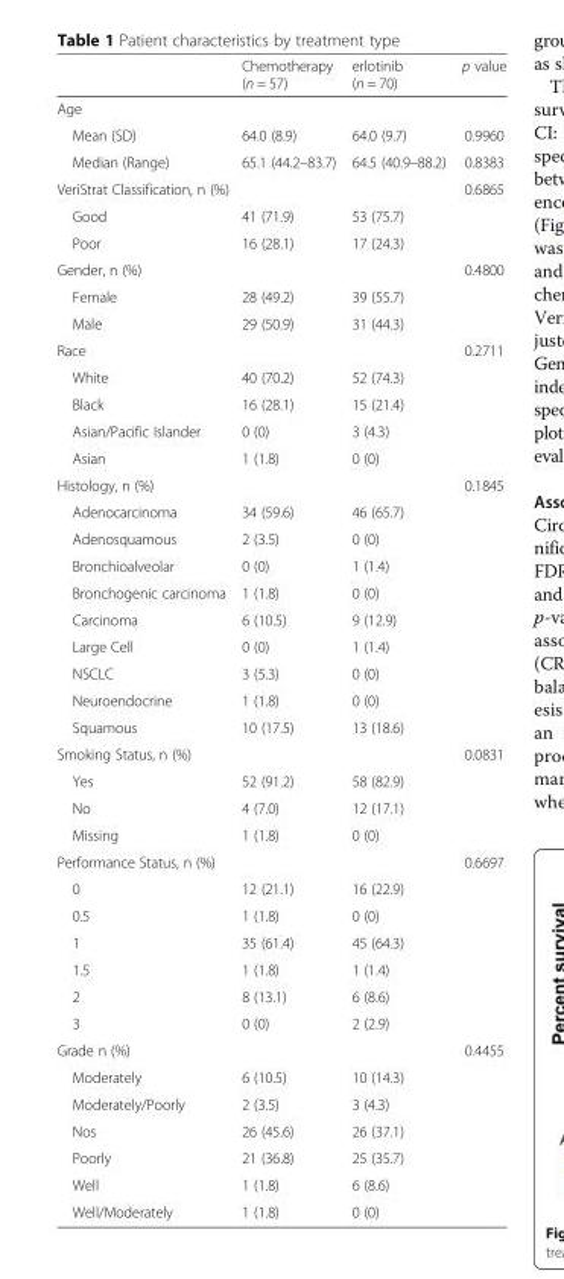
<table><thead><tr><td></td><td>Chemotherapy (n = 57)</td><td>erlotinib (n = 70)</td><td>p value</td></tr></thead><tbody><tr><td colspan="4">Age</td></tr><tr><td>Mean (SD)</td><td>64.0 (8.9)</td><td>64.0 (9.7)</td><td>0.9960</td></tr><tr><td>Median (Range)</td><td>65.1 (44.2–83.7)</td><td>64.5 (40.9–88.2)</td><td>0.8383</td></tr><tr><td colspan="3">VeriStrat Classification, n (%)</td><td>0.6865</td></tr><tr><td>Good</td><td>41 (71.9)</td><td>53 (75.7)</td><td></td></tr><tr><td>Poor</td><td>16 (28.1)</td><td>17 (24.3)</td><td></td></tr><tr><td colspan="3">Gender, n (%)</td><td>0.4800</td></tr><tr><td>Female</td><td>28 (49.2)</td><td>39 (55.7)</td><td></td></tr><tr><td>Male</td><td>29 (50.9)</td><td>31 (44.3)</td><td></td></tr><tr><td colspan="3">Race</td><td>0.2711</td></tr><tr><td>White</td><td>40 (70.2)</td><td>52 (74.3)</td><td></td></tr><tr><td>Black</td><td>16 (28.1)</td><td>15 (21.4)</td><td></td></tr><tr><td>Asian/Pacific Islander</td><td>0 (0)</td><td>3 (4.3)</td><td></td></tr><tr><td>Asian</td><td>1 (1.8)</td><td>0 (0)</td><td></td></tr><tr><td colspan="3">Histology, n (%)</td><td>0.1845</td></tr><tr><td>Adenocarcinoma</td><td>34 (59.6)</td><td>46 (65.7)</td><td></td></tr><tr><td>Adenosquamous</td><td>2 (3.5)</td><td>0 (0)</td><td></td></tr><tr><td>Bronchioalveolar</td><td>0 (0)</td><td>1 (1.4)</td><td></td></tr><tr><td>Bronchogenic carcinoma</td><td>1 (1.8)</td><td>0 (0)</td><td></td></tr><tr><td>Carcinoma</td><td>6 (10.5)</td><td>9 (12.9)</td><td></td></tr><tr><td>Large Cell</td><td>0 (0)</td><td>1 (1.4)</td><td></td></tr><tr><td>NSCLC</td><td>3 (5.3)</td><td>0 (0)</td><td></td></tr><tr><td>Neuroendocrine</td><td>1 (1.8)</td><td>0 (0)</td><td></td></tr><tr><td>Squamous</td><td>10 (17.5)</td><td>13 (18.6)</td><td></td></tr><tr><td colspan="3">Smoking Status, n (%)</td><td>0.0831</td></tr><tr><td>Yes</td><td>52 (91.2)</td><td>58 (82.9)</td><td></td></tr><tr><td>No</td><td>4 (7.0)</td><td>12 (17.1)</td><td></td></tr><tr><td>Missing</td><td>1 (1.8)</td><td>0 (0)</td><td></td></tr><tr><td colspan="3">Performance Status, n (%)</td><td>0.6697</td></tr><tr><td>0</td><td>12 (21.1)</td><td>16 (22.9)</td><td></td></tr><tr><td>0.5</td><td>1 (1.8)</td><td>0 (0)</td><td></td></tr><tr><td>1</td><td>35 (61.4)</td><td>45 (64.3)</td><td></td></tr><tr><td>1.5</td><td>1 (1.8)</td><td>1 (1.4)</td><td></td></tr><tr><td>2</td><td>8 (13.1)</td><td>6 (8.6)</td><td></td></tr><tr><td>3</td><td>0 (0)</td><td>2 (2.9)</td><td></td></tr><tr><td colspan="3">Grade n (%)</td><td>0.4455</td></tr><tr><td>Moderately</td><td>6 (10.5)</td><td>10 (14.3)</td><td></td></tr><tr><td>Moderately/Poorly</td><td>2 (3.5)</td><td>3 (4.3)</td><td></td></tr><tr><td>Nos</td><td>26 (45.6)</td><td>26 (37.1)</td><td></td></tr><tr><td>Poorly</td><td>21 (36.8)</td><td>25 (35.7)</td><td></td></tr><tr><td>Well</td><td>1 (1.8)</td><td>6 (8.6)</td><td></td></tr><tr><td>Well/Moderately</td><td>1 (1.8)</td><td>0 (0)</td><td></td></tr></tbody></table>